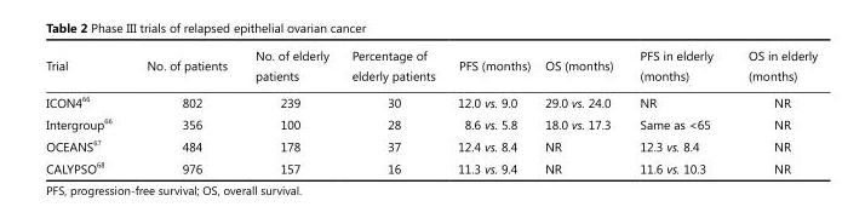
<table><thead><tr><td>Trial</td><td>No. of patients</td><td>No. of elderly patients</td><td>Percentage of elderly patients</td><td>PFS (months)</td><td>OS (months)</td><td>PFS in elderly (months)</td><td>OS in elderly (months)</td></tr></thead><tbody><tr><td>ICON4 <sup>66</sup></td><td>802</td><td>239</td><td>30</td><td>12.0 vs. 9.0</td><td>29.0 vs. 24.0</td><td>NR</td><td>NR</td></tr><tr><td>Intergroup <sup>66</sup></td><td>356</td><td>100</td><td>28</td><td>8.6 vs. 5.8</td><td>18.0 vs. 17.3</td><td>Same as &lt;65</td><td>NR</td></tr><tr><td>OCEANS <sup>67</sup></td><td>484</td><td>178</td><td>37</td><td>12.4 vs. 8.4</td><td>NR</td><td>12.3 vs. 8.4</td><td>NR</td></tr><tr><td>CALYPSO <sup>68</sup></td><td>976</td><td>157</td><td>16</td><td>11.3 vs. 9.4</td><td>NR</td><td>11.6 vs. 10.3</td><td>NR</td></tr></tbody></table>